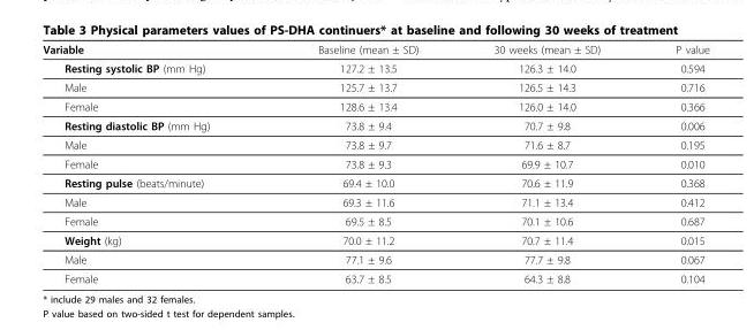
<table><thead><tr><td>Variable</td><td>Baseline (mean ± SD)</td><td>30 weeks (mean ± SD)</td><td>P value</td></tr></thead><tbody><tr><td>Resting systolic BP (mm Hg)</td><td>127.2 ± 13.5</td><td>126.3 ± 14.0</td><td>0.594</td></tr><tr><td>Male</td><td>125.7 ± 13.7</td><td>126.5 ± 14.3</td><td>0.716</td></tr><tr><td>Female</td><td>128.6 ± 13.4</td><td>126.0 ± 14.0</td><td>0.366</td></tr><tr><td>Resting diastolic BP (mm Hg)</td><td>73.8 ± 9.4</td><td>70.7 ± 9.8</td><td>0.006</td></tr><tr><td>Male</td><td>73.8 ± 9.7</td><td>71.6 ± 8.7</td><td>0.195</td></tr><tr><td>Female</td><td>73.8 ± 9.3</td><td>69.9 ± 10.7</td><td>0.010</td></tr><tr><td>Resting pulse (beats/minute)</td><td>69.4 ± 10.0</td><td>70.6 ± 11.9</td><td>0.368</td></tr><tr><td>Male</td><td>69.3 ± 11.6</td><td>71.1 ± 13.4</td><td>0.412</td></tr><tr><td>Female</td><td>69.5 ± 8.5</td><td>70.1 ± 10.6</td><td>0.687</td></tr><tr><td>Weight (kg)</td><td>70.0 ± 11.2</td><td>70.7 ± 11.4</td><td>0.015</td></tr><tr><td>Male</td><td>77.1 ± 9.6</td><td>77.7 ± 9.8</td><td>0.067</td></tr><tr><td>Female</td><td>63.7 ± 8.5</td><td>64.3 ± 8.8</td><td>0.104</td></tr></tbody></table>